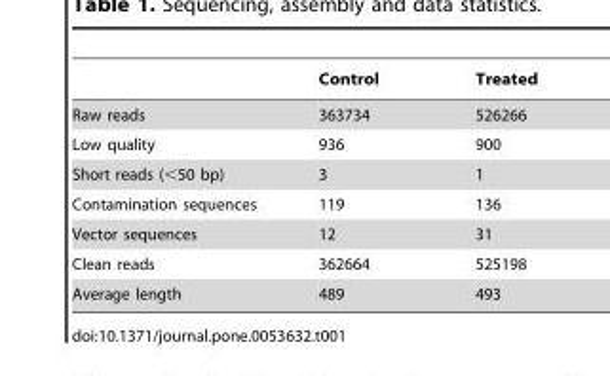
<table><thead><tr><td></td><td>Control</td><td>Treated</td></tr></thead><tbody><tr><td>Raw reads</td><td>363734</td><td>526266</td></tr><tr><td>Low quality</td><td>936</td><td>900</td></tr><tr><td>Short reads (&lt;50 bp)</td><td>3</td><td>1</td></tr><tr><td>Contamination sequences</td><td>119</td><td>136</td></tr><tr><td>Vector sequences</td><td>12</td><td>31</td></tr><tr><td>Clean reads</td><td>362664</td><td>525198</td></tr><tr><td>Average length</td><td>489</td><td>493</td></tr></tbody></table>